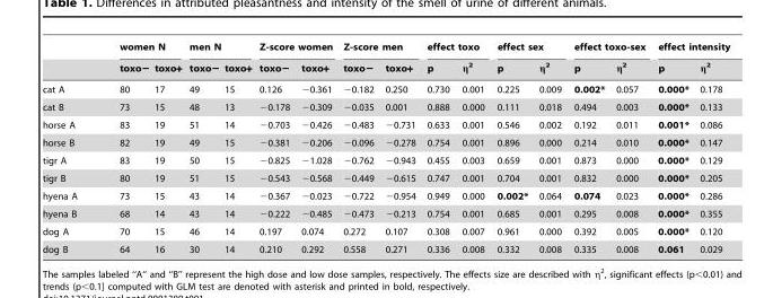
<table><thead><tr><td rowspan="2"></td><td colspan="2">women N</td><td colspan="2">men N</td><td colspan="2">Z-score women</td><td colspan="2">Z-score men</td><td colspan="2">effect toxo</td><td colspan="2">effect sex</td><td colspan="2">effect toxo-sex</td><td colspan="2">effect intensity</td></tr><tr><td>toxo−</td><td>toxo+</td><td>toxo−</td><td>toxo+</td><td>toxo−</td><td>toxo+</td><td>toxo−</td><td>toxo+</td><td>p</td><td>η<sup>2</sup></td><td>p</td><td>η<sup>2</sup></td><td>p</td><td>η<sup>2</sup></td><td>p</td><td>η<sup>2</sup></td></tr></thead><tbody><tr><td>cat A</td><td>80</td><td>17</td><td>49</td><td>15</td><td>0.126</td><td>−0.361</td><td>−0.182</td><td>0.250</td><td>0.730</td><td>0.001</td><td>0.225</td><td>0.009</td><td>0.002*</td><td>0.057</td><td>0.000*</td><td>0.178</td></tr><tr><td>cat B</td><td>73</td><td>15</td><td>48</td><td>13</td><td>−0.178</td><td>−0.309</td><td>−0.035</td><td>0.001</td><td>0.888</td><td>0.000</td><td>0.111</td><td>0.018</td><td>0.494</td><td>0.003</td><td>0.000*</td><td>0.133</td></tr><tr><td>horse A</td><td>83</td><td>19</td><td>51</td><td>14</td><td>−0.703</td><td>−0.426</td><td>−0.483</td><td>−0.731</td><td>0.633</td><td>0.001</td><td>0.546</td><td>0.002</td><td>0.192</td><td>0.011</td><td>0.001*</td><td>0.086</td></tr><tr><td>horse B</td><td>82</td><td>19</td><td>49</td><td>15</td><td>−0.381</td><td>−0.206</td><td>−0.096</td><td>−0.278</td><td>0.754</td><td>0.001</td><td>0.896</td><td>0.000</td><td>0.214</td><td>0.010</td><td>0.000*</td><td>0.147</td></tr><tr><td>tigr A</td><td>83</td><td>19</td><td>50</td><td>15</td><td>−0.825</td><td>−1.028</td><td>−0.762</td><td>−0.943</td><td>0.455</td><td>0.003</td><td>0.659</td><td>0.001</td><td>0.873</td><td>0.000</td><td>0.000*</td><td>0.129</td></tr><tr><td>tigr B</td><td>80</td><td>19</td><td>51</td><td>15</td><td>−0.543</td><td>−0.568</td><td>−0.449</td><td>−0.615</td><td>0.747</td><td>0.001</td><td>0.704</td><td>0.001</td><td>0.832</td><td>0.000</td><td>0.000*</td><td>0.205</td></tr><tr><td>hyena A</td><td>73</td><td>15</td><td>43</td><td>14</td><td>−0.367</td><td>−0.023</td><td>−0.722</td><td>−0.954</td><td>0.949</td><td>0.000</td><td>0.002*</td><td>0.064</td><td>0.074</td><td>0.023</td><td>0.000*</td><td>0.286</td></tr><tr><td>hyena B</td><td>68</td><td>14</td><td>43</td><td>14</td><td>−0.222</td><td>−0.485</td><td>−0.473</td><td>−0.213</td><td>0.754</td><td>0.001</td><td>0.685</td><td>0.001</td><td>0.295</td><td>0.008</td><td>0.000*</td><td>0.355</td></tr><tr><td>dog A</td><td>70</td><td>15</td><td>46</td><td>14</td><td>0.197</td><td>0.074</td><td>0.272</td><td>0.107</td><td>0.308</td><td>0.007</td><td>0.961</td><td>0.000</td><td>0.392</td><td>0.005</td><td>0.000*</td><td>0.120</td></tr><tr><td>dog B</td><td>64</td><td>16</td><td>30</td><td>14</td><td>0.210</td><td>0.292</td><td>0.558</td><td>0.271</td><td>0.336</td><td>0.008</td><td>0.332</td><td>0.008</td><td>0.335</td><td>0.008</td><td>0.061</td><td>0.029</td></tr></tbody></table>